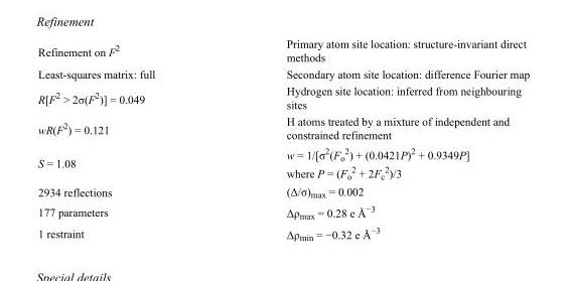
<table><tbody><tr><td>Refinement on F<sup>2</sup></td><td>Primary atom site location: structure-invariant direct methods</td></tr><tr><td>Least-squares matrix: full</td><td>Secondary atom site location: difference Fourier map</td></tr><tr><td>R[F<sup>2</sup> &gt; 2σ(F<sup>2</sup>)] = 0.049</td><td>Hydrogen site location: inferred from neighbouring sites</td></tr><tr><td>wR(F<sup>2</sup>) = 0.121</td><td>H atoms treated by a mixture of independent and constrained refinement</td></tr><tr><td>S = 1.08</td><td>w = 1/[σ<sup>2</sup>(F<sub>o</sub> <sup>2</sup>) + (0.0421P)<sup>2</sup> + 0.9349P] where P = (F<sub>o</sub> <sup>2</sup> + 2F<sub>c</sub> <sup>2</sup>)/3</td></tr><tr><td>2934 reflections</td><td>(Δ/σ)<sub>max</sub> = 0.002</td></tr><tr><td>177 parameters</td><td>Δρ<sub>max</sub> = 0.28 e Å<sup>−3</sup></td></tr><tr><td>1 restraint</td><td>Δρ<sub>min</sub> = −0.32 e Å<sup>−3</sup></td></tr></tbody></table>